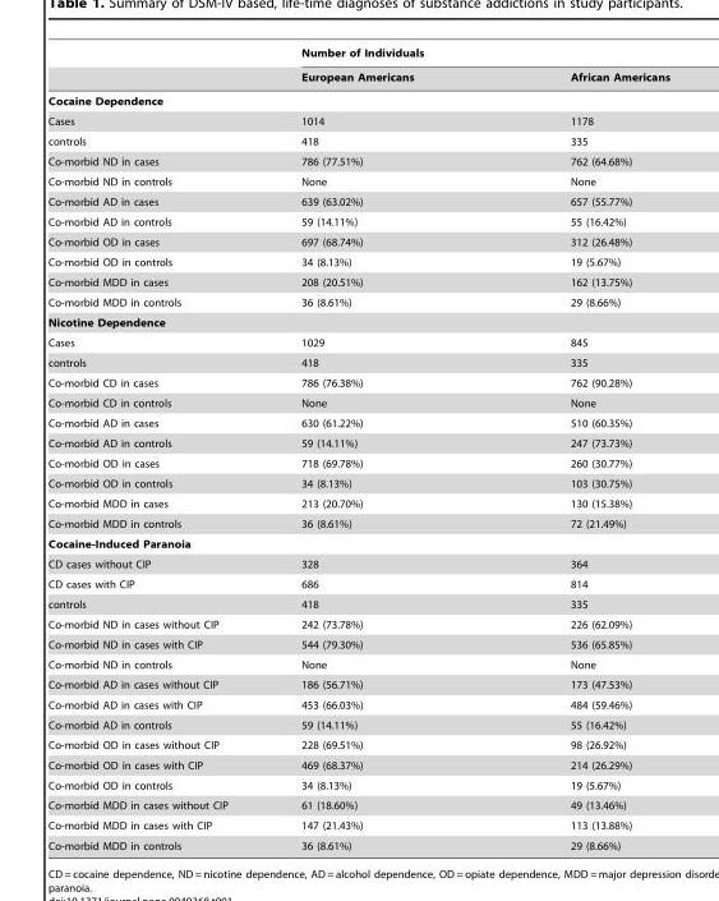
<table><thead><tr><td rowspan="2"></td><td colspan="2">Number of Individuals</td></tr><tr><td>European Americans</td><td>African Americans</td></tr></thead><tbody><tr><td colspan="3">Cocaine Dependence</td></tr><tr><td>Cases</td><td>1014</td><td>1178</td></tr><tr><td>controls</td><td>418</td><td>335</td></tr><tr><td>Co-morbid ND in cases</td><td>786 (77.51%)</td><td>762 (64.68%)</td></tr><tr><td>Co-morbid ND in controls</td><td>None</td><td>None</td></tr><tr><td>Co-morbid AD in cases</td><td>639 (63.02%)</td><td>657 (55.77%)</td></tr><tr><td>Co-morbid AD in controls</td><td>59 (14.11%)</td><td>55 (16.42%)</td></tr><tr><td>Co-morbid OD in cases</td><td>697 (68.74%)</td><td>312 (26.48%)</td></tr><tr><td>Co-morbid OD in controls</td><td>34 (8.13%)</td><td>19 (5.67%)</td></tr><tr><td>Co-morbid MDD in cases</td><td>208 (20.51%)</td><td>162 (13.75%)</td></tr><tr><td>Co-morbid MDD in controls</td><td>36 (8.61%)</td><td>29 (8.66%)</td></tr><tr><td colspan="3">Nicotine Dependence</td></tr><tr><td>Cases</td><td>1029</td><td>845</td></tr><tr><td>controls</td><td>418</td><td>335</td></tr><tr><td>Co-morbid CD in cases</td><td>786 (76.38%)</td><td>762 (90.28%)</td></tr><tr><td>Co-morbid CD in controls</td><td>None</td><td>None</td></tr><tr><td>Co-morbid AD in cases</td><td>630 (61.22%)</td><td>510 (60.35%)</td></tr><tr><td>Co-morbid AD in controls</td><td>59 (14.11%)</td><td>247 (73.73%)</td></tr><tr><td>Co-morbid OD in cases</td><td>718 (69.78%)</td><td>260 (30.77%)</td></tr><tr><td>Co-morbid OD in controls</td><td>34 (8.13%)</td><td>103 (30.75%)</td></tr><tr><td>Co-morbid MDD in cases</td><td>213 (20.70%)</td><td>130 (15.38%)</td></tr><tr><td>Co-morbid MDD in controls</td><td>36 (8.61%)</td><td>72 (21.49%)</td></tr><tr><td colspan="3">Cocaine-Induced Paranoia</td></tr><tr><td>CD cases without CIP</td><td>328</td><td>364</td></tr><tr><td>CD cases with CIP</td><td>686</td><td>814</td></tr><tr><td>controls</td><td>418</td><td>335</td></tr><tr><td>Co-morbid ND in cases without CIP</td><td>242 (73.78%)</td><td>226 (62.09%)</td></tr><tr><td>Co-morbid ND in cases with CIP</td><td>544 (79.30%)</td><td>536 (65.85%)</td></tr><tr><td>Co-morbid ND in controls</td><td>None</td><td>None</td></tr><tr><td>Co-morbid AD in cases without CIP</td><td>186 (56.71%)</td><td>173 (47.53%)</td></tr><tr><td>Co-morbid AD in cases with CIP</td><td>453 (66.03%)</td><td>484 (59.46%)</td></tr><tr><td>Co-morbid AD in controls</td><td>59 (14.11%)</td><td>55 (16.42%)</td></tr><tr><td>Co-morbid OD in cases without CIP</td><td>228 (69.51%)</td><td>98 (26.92%)</td></tr><tr><td>Co-morbid OD in cases with CIP</td><td>469 (68.37%)</td><td>214 (26.29%)</td></tr><tr><td>Co-morbid OD in controls</td><td>34 (8.13%)</td><td>19 (5.67%)</td></tr><tr><td>Co-morbid MDD in cases without CIP</td><td>61 (18.60%)</td><td>49 (13.46%)</td></tr><tr><td>Co-morbid MDD in cases with CIP</td><td>147 (21.43%)</td><td>113 (13.88%)</td></tr><tr><td>Co-morbid MDD in controls</td><td>36 (8.61%)</td><td>29 (8.66%)</td></tr></tbody></table>